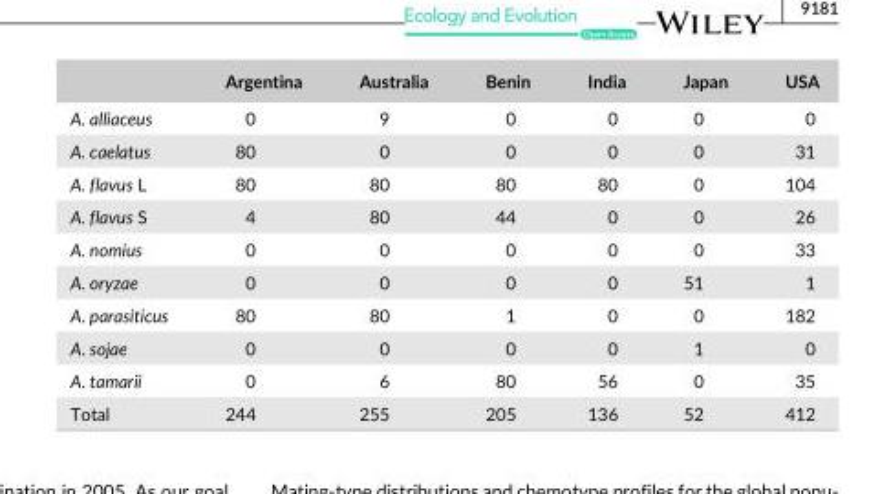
<table><thead><tr><td></td><td>Argentina</td><td>Australia</td><td>Benin</td><td>India</td><td>Japan</td><td>USA</td></tr></thead><tbody><tr><td>A. alliaceus</td><td>0</td><td>9</td><td>0</td><td>0</td><td>0</td><td>0</td></tr><tr><td>A. caelatus</td><td>80</td><td>0</td><td>0</td><td>0</td><td>0</td><td>31</td></tr><tr><td>A. flavus L</td><td>80</td><td>80</td><td>80</td><td>80</td><td>0</td><td>104</td></tr><tr><td>A. flavus S</td><td>4</td><td>80</td><td>44</td><td>0</td><td>0</td><td>26</td></tr><tr><td>A. nomius</td><td>0</td><td>0</td><td>0</td><td>0</td><td>0</td><td>33</td></tr><tr><td>A. oryzae</td><td>0</td><td>0</td><td>0</td><td>0</td><td>51</td><td>1</td></tr><tr><td>A. parasiticus</td><td>80</td><td>80</td><td>1</td><td>0</td><td>0</td><td>182</td></tr><tr><td>A. sojae</td><td>0</td><td>0</td><td>0</td><td>0</td><td>1</td><td>0</td></tr><tr><td>A. tamarii</td><td>0</td><td>6</td><td>80</td><td>56</td><td>0</td><td>35</td></tr><tr><td>Total</td><td>244</td><td>255</td><td>205</td><td>136</td><td>52</td><td>412</td></tr></tbody></table>